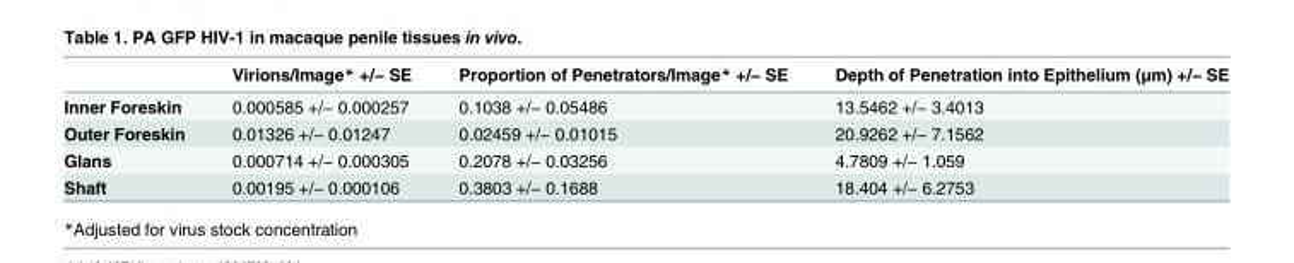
<table><thead><tr><td></td><td>Virions/Image* +/− SE</td><td>Proportion of Penetrators/Image* +/− SE</td><td>Depth of Penetration into Epithelium (μm) +/− SE</td></tr></thead><tbody><tr><td>Inner Foreskin</td><td>0.000585 +/− 0.000257</td><td>0.1038 +/− 0.05486</td><td>13.5462 +/− 3.4013</td></tr><tr><td>Outer Foreskin</td><td>0.01326 +/− 0.01247</td><td>0.02459 +/− 0.01015</td><td>20.9262 +/− 7.1562</td></tr><tr><td>Glans</td><td>0.000714 +/− 0.000305</td><td>0.2078 +/− 0.03256</td><td>4.7809 +/− 1.059</td></tr><tr><td>Shaft</td><td>0.00195 +/− 0.000106</td><td>0.3803 +/− 0.1688</td><td>18.404 +/− 6.2753</td></tr></tbody></table>